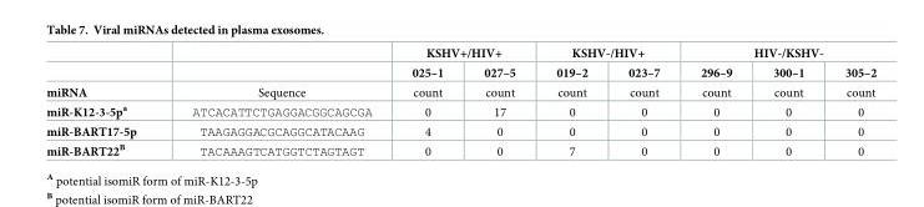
<table><thead><tr><td rowspan="2"></td><td rowspan="2"></td><td colspan="2">KSHV+/HIV+</td><td colspan="2">KSHV-/HIV+</td><td colspan="3">HIV-/KSHV-</td></tr><tr><td>025–1</td><td>027–5</td><td>019–2</td><td>023–7</td><td>296–9</td><td>300–1</td><td>305–2</td></tr></thead><tbody><tr><td>miRNA</td><td>Sequence</td><td>count</td><td>count</td><td>count</td><td>count</td><td>count</td><td>count</td><td>count</td></tr><tr><td>miR-K12-3-5p<sup>a</sup></td><td>ATCACATTCTGAGGACGGCAGCGA</td><td>0</td><td>17</td><td>0</td><td>0</td><td>0</td><td>0</td><td>0</td></tr><tr><td>miR-BART17-5p</td><td>TAAGAGGACGCAGGCATACAAG</td><td>4</td><td>0</td><td>0</td><td>0</td><td>0</td><td>0</td><td>0</td></tr><tr><td>miR-BART22<sup>B</sup></td><td>TACAAAGTCATGGTCTAGTAGT</td><td>0</td><td>0</td><td>7</td><td>0</td><td>0</td><td>0</td><td>0</td></tr></tbody></table>